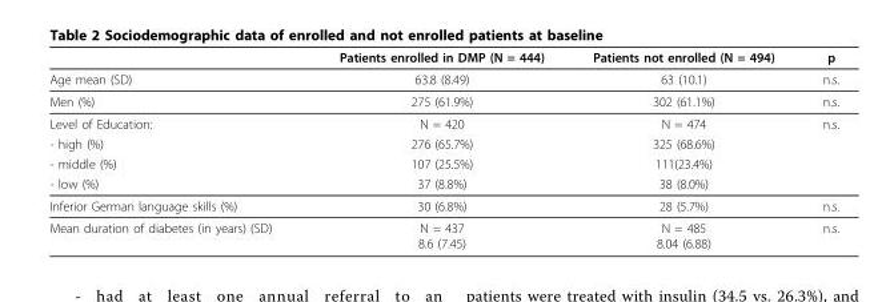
<table><thead><tr><td></td><td>Patients enrolled in DMP (N = 444)</td><td>Patients not enrolled (N = 494)</td><td>p</td></tr></thead><tbody><tr><td>Age mean (SD)</td><td>63.8 (8.49)</td><td>63 (10.1)</td><td>n.s.</td></tr><tr><td>Men (%)</td><td>275 (61.9%)</td><td>302 (61.1%)</td><td>n.s.</td></tr><tr><td>Level of Education:</td><td>N = 420</td><td>N = 474</td><td>n.s.</td></tr><tr><td>- high (%)</td><td>276 (65.7%)</td><td>325 (68.6%)</td><td></td></tr><tr><td>- middle (%)</td><td>107 (25.5%)</td><td>111(23.4%)</td><td></td></tr><tr><td>- low (%)</td><td>37 (8.8%)</td><td>38 (8.0%)</td><td></td></tr><tr><td>Inferior German language skills (%)</td><td>30 (6.8%)</td><td>28 (5.7%)</td><td>n.s.</td></tr><tr><td>Mean duration of diabetes (in years) (SD)</td><td>N = 437 8.6 (7.45)</td><td>N = 485 8.04 (6.88)</td><td>n.s.</td></tr></tbody></table>